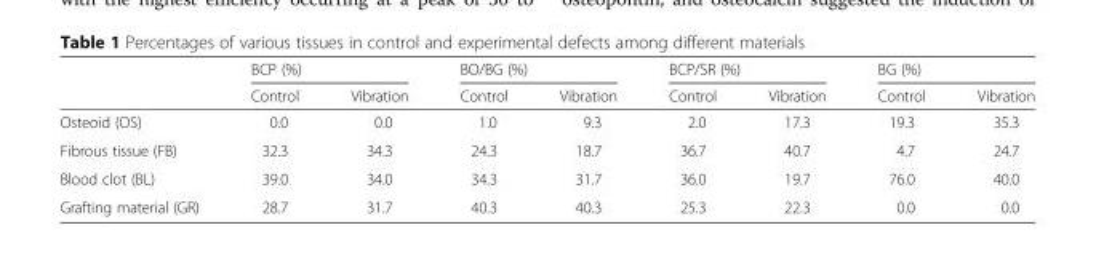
<table><thead><tr><td rowspan="2"></td><td colspan="2">BCP (%)</td><td colspan="2">BO/BG (%)</td><td colspan="2">BCP/SR (%)</td><td colspan="2">BG (%)</td></tr><tr><td>Control</td><td>Vibration</td><td>Control</td><td>Vibration</td><td>Control</td><td>Vibration</td><td>Control</td><td>Vibration</td></tr></thead><tbody><tr><td>Osteoid (OS)</td><td>0.0</td><td>0.0</td><td>1.0</td><td>9.3</td><td>2.0</td><td>17.3</td><td>19.3</td><td>35.3</td></tr><tr><td>Fibrous tissue (FB)</td><td>32.3</td><td>34.3</td><td>24.3</td><td>18.7</td><td>36.7</td><td>40.7</td><td>4.7</td><td>24.7</td></tr><tr><td>Blood clot (BL)</td><td>39.0</td><td>34.0</td><td>34.3</td><td>31.7</td><td>36.0</td><td>19.7</td><td>76.0</td><td>40.0</td></tr><tr><td>Grafting material (GR)</td><td>28.7</td><td>31.7</td><td>40.3</td><td>40.3</td><td>25.3</td><td>22.3</td><td>0.0</td><td>0.0</td></tr></tbody></table>